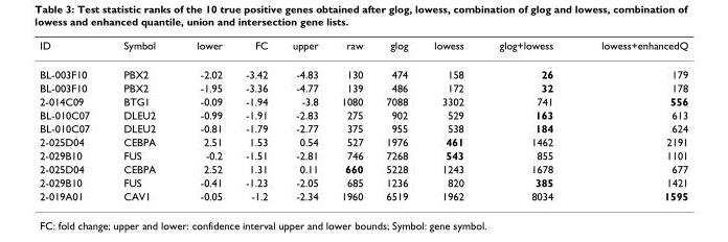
<table><thead><tr><td>ID</td><td>Symbol</td><td>lower</td><td>FC</td><td>upper</td><td>raw</td><td>glog</td><td>lowess</td><td>glog+lowess</td><td>lowess+enhancedQ</td></tr></thead><tbody><tr><td>BL-003F10</td><td>PBX2</td><td>-2.02</td><td>-3.42</td><td>-4.83</td><td>130</td><td>474</td><td>158</td><td>26</td><td>179</td></tr><tr><td>BL-003F10</td><td>PBX2</td><td>-1.95</td><td>-3.36</td><td>-4.77</td><td>139</td><td>486</td><td>172</td><td>32</td><td>178</td></tr><tr><td>2-014C09</td><td>BTG1</td><td>-0.09</td><td>-1.94</td><td>-3.8</td><td>1080</td><td>7088</td><td>3302</td><td>741</td><td>556</td></tr><tr><td>BL-010C07</td><td>DLEU2</td><td>-0.99</td><td>-1.91</td><td>-2.83</td><td>275</td><td>902</td><td>529</td><td>163</td><td>613</td></tr><tr><td>BL-010C07</td><td>DLEU2</td><td>-0.81</td><td>-1.79</td><td>-2.77</td><td>375</td><td>955</td><td>538</td><td>184</td><td>624</td></tr><tr><td>2-025D04</td><td>CEBPA</td><td>2.51</td><td>1.53</td><td>0.54</td><td>527</td><td>1976</td><td>461</td><td>1462</td><td>2191</td></tr><tr><td>2-029B10</td><td>FUS</td><td>-0.2</td><td>-1.51</td><td>-2.81</td><td>746</td><td>7268</td><td>543</td><td>855</td><td>1101</td></tr><tr><td>2-025D04</td><td>CEBPA</td><td>2.52</td><td>1.31</td><td>0.11</td><td>660</td><td>5228</td><td>1243</td><td>1678</td><td>677</td></tr><tr><td>2-029B10</td><td>FUS</td><td>-0.41</td><td>-1.23</td><td>-2.05</td><td>685</td><td>1236</td><td>820</td><td>385</td><td>1421</td></tr><tr><td>2-019A01</td><td>CAV1</td><td>-0.05</td><td>-1.2</td><td>-2.34</td><td>1960</td><td>6519</td><td>1962</td><td>8034</td><td>1595</td></tr></tbody></table>